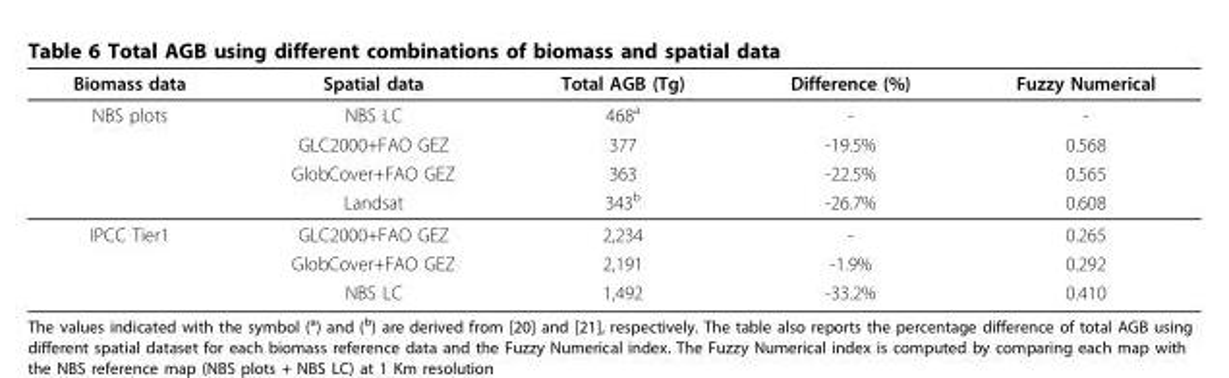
<table><thead><tr><td>Biomass data</td><td>Spatial data</td><td>Total AGB (Tg)</td><td>Difference (%)</td><td>Fuzzy Numerical</td></tr></thead><tbody><tr><td rowspan="4">NBS plots</td><td>NBS LC</td><td>468<sup>a</sup></td><td>-</td><td>-</td></tr><tr><td>GLC2000+FAO GEZ</td><td>377</td><td>-19.5%</td><td>0.568</td></tr><tr><td>GlobCover+FAO GEZ</td><td>363</td><td>-22.5%</td><td>0.565</td></tr><tr><td>Landsat</td><td>343<sup>b</sup></td><td>-26.7%</td><td>0.608</td></tr><tr><td rowspan="3">IPCC Tier1</td><td>GLC2000+FAO GEZ</td><td>2,234</td><td>-</td><td>0.265</td></tr><tr><td>GlobCover+FAO GEZ</td><td>2,191</td><td>-1.9%</td><td>0.292</td></tr><tr><td>NBS LC</td><td>1,492</td><td>-33.2%</td><td>0.410</td></tr></tbody></table>